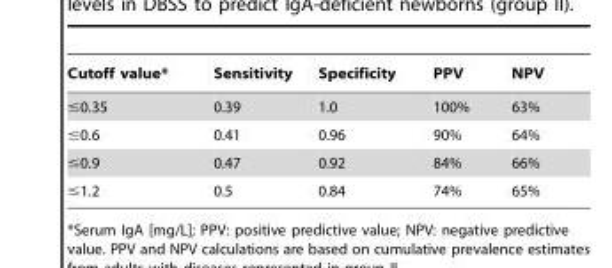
<table><thead><tr><td>Cutoff value*</td><td>Sensitivity</td><td>Specificity</td><td>PPV</td><td>NPV</td></tr></thead><tbody><tr><td>≤0.35</td><td>0.39</td><td>1.0</td><td>100%</td><td>63%</td></tr><tr><td>≤0.6</td><td>0.41</td><td>0.96</td><td>90%</td><td>64%</td></tr><tr><td>≤0.9</td><td>0.47</td><td>0.92</td><td>84%</td><td>66%</td></tr><tr><td>≤1.2</td><td>0.5</td><td>0.84</td><td>74%</td><td>65%</td></tr></tbody></table>